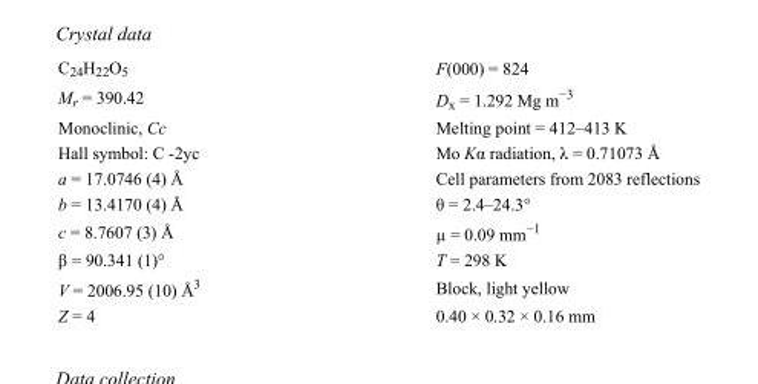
<table><tbody><tr><td>C<sub>24</sub>H<sub>22</sub>O<sub>5</sub></td><td>F(000) = 824</td></tr><tr><td>M<sub>r</sub> = 390.42</td><td>D<sub>x</sub> = 1.292 Mg m<sup>−3</sup></td></tr><tr><td>Monoclinic, Cc</td><td>Melting point = 412–413 K</td></tr><tr><td>Hall symbol: C -2yc</td><td>Mo Kα radiation, λ = 0.71073 Å</td></tr><tr><td>a = 17.0746 (4) Å</td><td>Cell parameters from 2083 reflections</td></tr><tr><td>b = 13.4170 (4) Å</td><td>θ = 2.4–24.3°</td></tr><tr><td>c = 8.7607 (3) Å</td><td>µ = 0.09 mm<sup>−1</sup></td></tr><tr><td>β = 90.341 (1)°</td><td>T = 298 K</td></tr><tr><td>V = 2006.95 (10) Å<sup>3</sup></td><td>Block, light yellow</td></tr><tr><td>Z = 4</td><td>0.40 × 0.32 × 0.16 mm</td></tr></tbody></table>